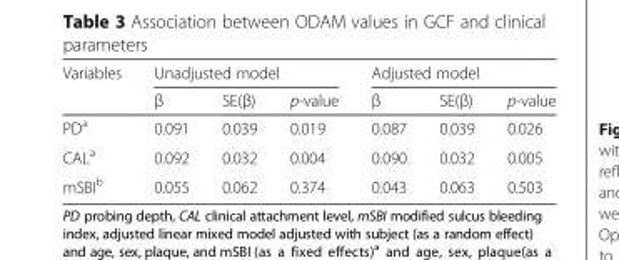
<table><thead><tr><td rowspan="2">Variables</td><td colspan="3">Unadjusted model</td><td colspan="3">Adjusted model</td></tr><tr><td>β</td><td>SE(β)</td><td>p-value</td><td>β</td><td>SE(β)</td><td>p-value</td></tr></thead><tbody><tr><td>PD<sup>a</sup></td><td>0.091</td><td>0.039</td><td>0.019</td><td>0.087</td><td>0.039</td><td>0.026</td></tr><tr><td>CAL<sup>a</sup></td><td>0.092</td><td>0.032</td><td>0.004</td><td>0.090</td><td>0.032</td><td>0.005</td></tr><tr><td>mSBI<sup>b</sup></td><td>0.055</td><td>0.062</td><td>0.374</td><td>0.043</td><td>0.063</td><td>0.503</td></tr></tbody></table>